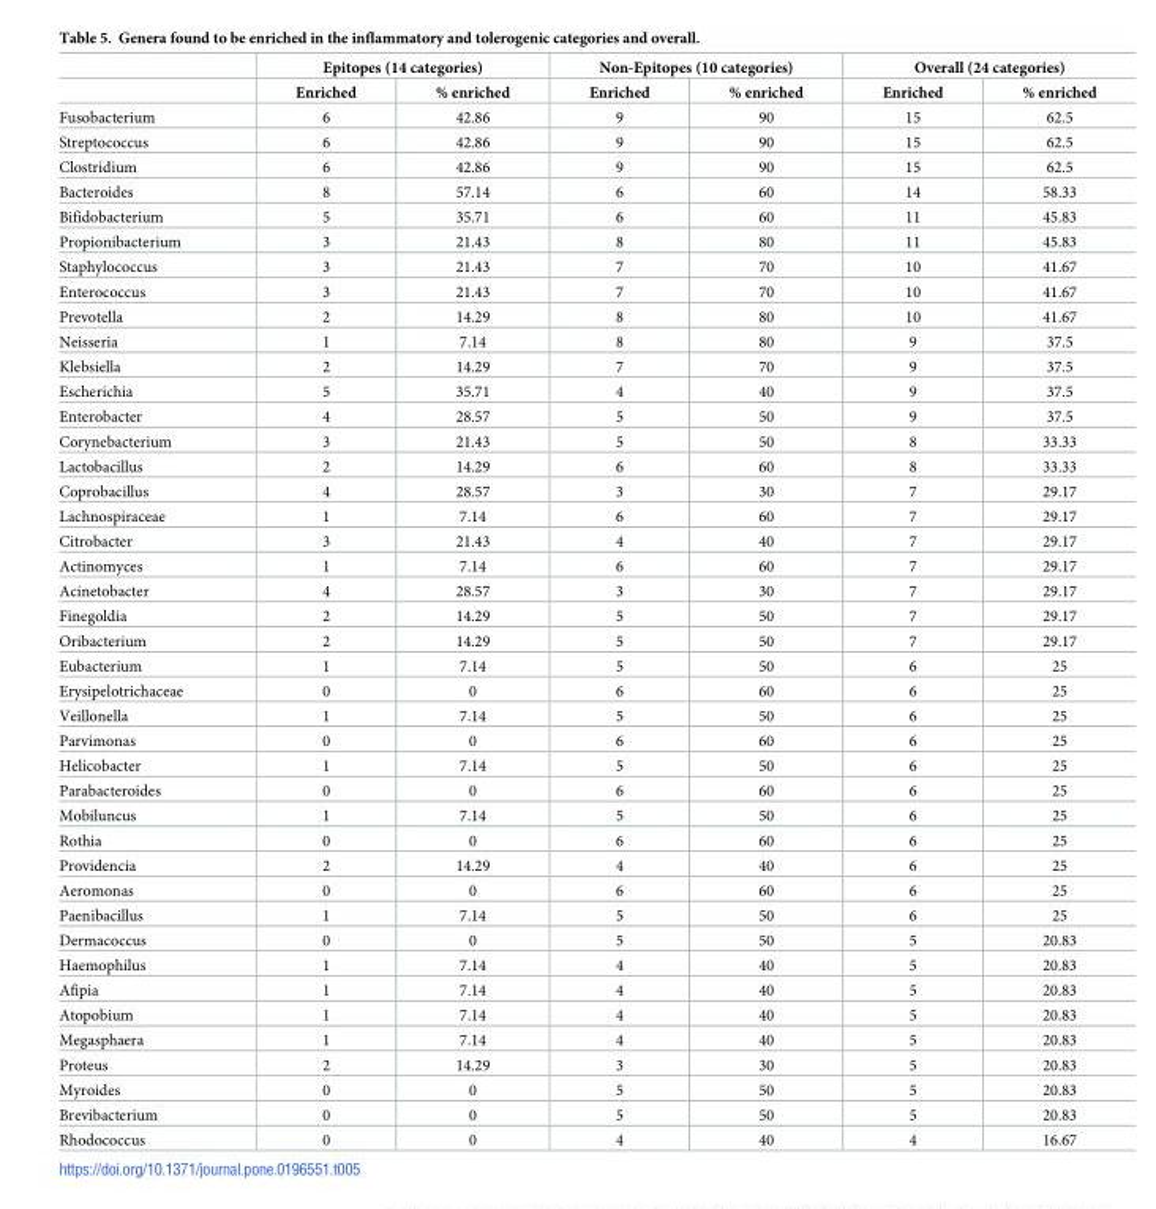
<table><thead><tr><td rowspan="2"></td><td colspan="2">Epitopes (14 categories)</td><td colspan="2">Non-Epitopes (10 categories)</td><td colspan="2">Overall (24 categories)</td></tr><tr><td>Enriched</td><td>% enriched</td><td>Enriched</td><td>% enriched</td><td>Enriched</td><td>% enriched</td></tr></thead><tbody><tr><td>Fusobacterium</td><td>6</td><td>42.86</td><td>9</td><td>90</td><td>15</td><td>62.5</td></tr><tr><td>Streptococcus</td><td>6</td><td>42.86</td><td>9</td><td>90</td><td>15</td><td>62.5</td></tr><tr><td>Clostridium</td><td>6</td><td>42.86</td><td>9</td><td>90</td><td>15</td><td>62.5</td></tr><tr><td>Bacteroides</td><td>8</td><td>57.14</td><td>6</td><td>60</td><td>14</td><td>58.33</td></tr><tr><td>Bifidobacterium</td><td>5</td><td>35.71</td><td>6</td><td>60</td><td>11</td><td>45.83</td></tr><tr><td>Propionibacterium</td><td>3</td><td>21.43</td><td>8</td><td>80</td><td>11</td><td>45.83</td></tr><tr><td>Staphylococcus</td><td>3</td><td>21.43</td><td>7</td><td>70</td><td>10</td><td>41.67</td></tr><tr><td>Enterococcus</td><td>3</td><td>21.43</td><td>7</td><td>70</td><td>10</td><td>41.67</td></tr><tr><td>Prevotella</td><td>2</td><td>14.29</td><td>8</td><td>80</td><td>10</td><td>41.67</td></tr><tr><td>Neisseria</td><td>1</td><td>7.14</td><td>8</td><td>80</td><td>9</td><td>37.5</td></tr><tr><td>Klebsiella</td><td>2</td><td>14.29</td><td>7</td><td>70</td><td>9</td><td>37.5</td></tr><tr><td>Escherichia</td><td>5</td><td>35.71</td><td>4</td><td>40</td><td>9</td><td>37.5</td></tr><tr><td>Enterobacter</td><td>4</td><td>28.57</td><td>5</td><td>50</td><td>9</td><td>37.5</td></tr><tr><td>Corynebacterium</td><td>3</td><td>21.43</td><td>5</td><td>50</td><td>8</td><td>33.33</td></tr><tr><td>Lactobacillus</td><td>2</td><td>14.29</td><td>6</td><td>60</td><td>8</td><td>33.33</td></tr><tr><td>Coprobacillus</td><td>4</td><td>28.57</td><td>3</td><td>30</td><td>7</td><td>29.17</td></tr><tr><td>Lachnospiraceae</td><td>1</td><td>7.14</td><td>6</td><td>60</td><td>7</td><td>29.17</td></tr><tr><td>Citrobacter</td><td>3</td><td>21.43</td><td>4</td><td>40</td><td>7</td><td>29.17</td></tr><tr><td>Actinomyces</td><td>1</td><td>7.14</td><td>6</td><td>60</td><td>7</td><td>29.17</td></tr><tr><td>Acinetobacter</td><td>4</td><td>28.57</td><td>3</td><td>30</td><td>7</td><td>29.17</td></tr><tr><td>Finegoldia</td><td>2</td><td>14.29</td><td>5</td><td>50</td><td>7</td><td>29.17</td></tr><tr><td>Oribacterium</td><td>2</td><td>14.29</td><td>5</td><td>50</td><td>7</td><td>29.17</td></tr><tr><td>Eubacterium</td><td>1</td><td>7.14</td><td>5</td><td>50</td><td>6</td><td>25</td></tr><tr><td>Erysipelotrichaceae</td><td>0</td><td>0</td><td>6</td><td>60</td><td>6</td><td>25</td></tr><tr><td>Veillonella</td><td>1</td><td>7.14</td><td>5</td><td>50</td><td>6</td><td>25</td></tr><tr><td>Parvimonas</td><td>0</td><td>0</td><td>6</td><td>60</td><td>6</td><td>25</td></tr><tr><td>Helicobacter</td><td>1</td><td>7.14</td><td>5</td><td>50</td><td>6</td><td>25</td></tr><tr><td>Parabacteroides</td><td>0</td><td>0</td><td>6</td><td>60</td><td>6</td><td>25</td></tr><tr><td>Mobiluncus</td><td>1</td><td>7.14</td><td>5</td><td>50</td><td>6</td><td>25</td></tr><tr><td>Rothia</td><td>0</td><td>0</td><td>6</td><td>60</td><td>6</td><td>25</td></tr><tr><td>Providencia</td><td>2</td><td>14.29</td><td>4</td><td>40</td><td>6</td><td>25</td></tr><tr><td>Aeromonas</td><td>0</td><td>0</td><td>6</td><td>60</td><td>6</td><td>25</td></tr><tr><td>Paenibacillus</td><td>1</td><td>7.14</td><td>5</td><td>50</td><td>6</td><td>25</td></tr><tr><td>Dermacoccus</td><td>0</td><td>0</td><td>5</td><td>50</td><td>5</td><td>20.83</td></tr><tr><td>Haemophilus</td><td>1</td><td>7.14</td><td>4</td><td>40</td><td>5</td><td>20.83</td></tr><tr><td>Afipia</td><td>1</td><td>7.14</td><td>4</td><td>40</td><td>5</td><td>20.83</td></tr><tr><td>Atopobium</td><td>1</td><td>7.14</td><td>4</td><td>40</td><td>5</td><td>20.83</td></tr><tr><td>Megasphaera</td><td>1</td><td>7.14</td><td>4</td><td>40</td><td>5</td><td>20.83</td></tr><tr><td>Proteus</td><td>2</td><td>14.29</td><td>3</td><td>30</td><td>5</td><td>20.83</td></tr><tr><td>Myroides</td><td>0</td><td>0</td><td>5</td><td>50</td><td>5</td><td>20.83</td></tr><tr><td>Brevibacterium</td><td>0</td><td>0</td><td>5</td><td>50</td><td>5</td><td>20.83</td></tr><tr><td>Rhodococcus</td><td>0</td><td>0</td><td>4</td><td>40</td><td>4</td><td>16.67</td></tr></tbody></table>